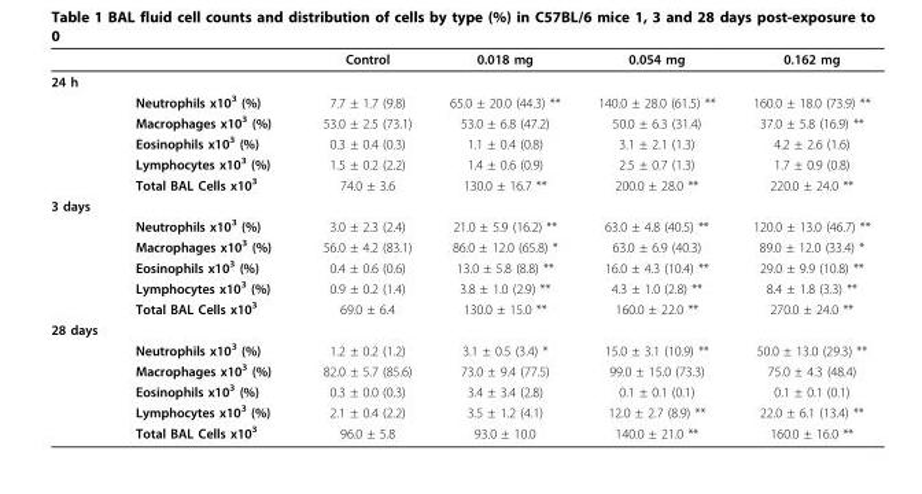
<table><thead><tr><td></td><td></td><td>Control</td><td>0.018 mg</td><td>0.054 mg</td><td>0.162 mg</td></tr></thead><tbody><tr><td colspan="6">24 h</td></tr><tr><td></td><td>Neutrophils x10<sup>3</sup> (%)</td><td>7.7 ± 1.7 (9.8)</td><td>65.0 ± 20.0 (44.3) **</td><td>140.0 ± 28.0 (61.5) **</td><td>160.0 ± 18.0 (73.9) **</td></tr><tr><td></td><td>Macrophages x10<sup>3</sup> (%)</td><td>53.0 ± 2.5 (73.1)</td><td>53.0 ± 6.8 (47.2)</td><td>50.0 ± 6.3 (31.4)</td><td>37.0 ± 5.8 (16.9) **</td></tr><tr><td></td><td>Eosinophils x10<sup>3</sup> (%)</td><td>0.3 ± 0.4 (0.3)</td><td>1.1 ± 0.4 (0.8)</td><td>3.1 ± 2.1 (1.3)</td><td>4.2 ± 2.6 (1.6)</td></tr><tr><td></td><td>Lymphocytes x10<sup>3</sup> (%)</td><td>1.5 ± 0.2 (2.2)</td><td>1.4 ± 0.6 (0.9)</td><td>2.5 ± 0.7 (1.3)</td><td>1.7 ± 0.9 (0.8)</td></tr><tr><td></td><td>Total BAL Cells x10<sup>3</sup></td><td>74.0 ± 3.6</td><td>130.0 ± 16.7 **</td><td>200.0 ± 28.0 **</td><td>220.0 ± 24.0 **</td></tr><tr><td colspan="6">3 days</td></tr><tr><td></td><td>Neutrophils x10<sup>3</sup> (%)</td><td>3.0 ± 2.3 (2.4)</td><td>21.0 ± 5.9 (16.2) **</td><td>63.0 ± 4.8 (40.5) **</td><td>120.0 ± 13.0 (46.7) **</td></tr><tr><td></td><td>Macrophages x10<sup>3</sup> (%)</td><td>56.0 ± 4.2 (83.1)</td><td>86.0 ± 12.0 (65.8) *</td><td>63.0 ± 6.9 (40.3)</td><td>89.0 ± 12.0 (33.4) *</td></tr><tr><td></td><td>Eosinophils x10<sup>3</sup> (%)</td><td>0.4 ± 0.6 (0.6)</td><td>13.0 ± 5.8 (8.8) **</td><td>16.0 ± 4.3 (10.4) **</td><td>29.0 ± 9.9 (10.8) **</td></tr><tr><td></td><td>Lymphocytes x10<sup>3</sup> (%)</td><td>0.9 ± 0.2 (1.4)</td><td>3.8 ± 1.0 (2.9) **</td><td>4.3 ± 1.0 (2.8) **</td><td>8.4 ± 1.8 (3.3) **</td></tr><tr><td></td><td>Total BAL Cells x10<sup>3</sup></td><td>69.0 ± 6.4</td><td>130.0 ± 15.0 **</td><td>160.0 ± 22.0 **</td><td>270.0 ± 24.0 **</td></tr><tr><td colspan="6">28 days</td></tr><tr><td></td><td>Neutrophils x10<sup>3</sup> (%)</td><td>1.2 ± 0.2 (1.2)</td><td>3.1 ± 0.5 (3.4) *</td><td>15.0 ± 3.1 (10.9) **</td><td>50.0 ± 13.0 (29.3) **</td></tr><tr><td></td><td>Macrophages x10<sup>3</sup> (%)</td><td>82.0 ± 5.7 (85.6)</td><td>73.0 ± 9.4 (77.5)</td><td>99.0 ± 15.0 (73.3)</td><td>75.0 ± 4.3 (48.4)</td></tr><tr><td></td><td>Eosinophils x10<sup>3</sup> (%)</td><td>0.3 ± 0.0 (0.3)</td><td>3.4 ± 3.4 (2.8)</td><td>0.1 ± 0.1 (0.1)</td><td>0.1 ± 0.1 (0.1)</td></tr><tr><td></td><td>Lymphocytes x10<sup>3</sup> (%)</td><td>2.1 ± 0.4 (2.2)</td><td>3.5 ± 1.2 (4.1)</td><td>12.0 ± 2.7 (8.9) **</td><td>22.0 ± 6.1 (13.4) **</td></tr><tr><td></td><td>Total BAL Cells x10<sup>3</sup></td><td>96.0 ± 5.8</td><td>93.0 ± 10.0</td><td>140.0 ± 21.0 **</td><td>160.0 ± 16.0 **</td></tr></tbody></table>